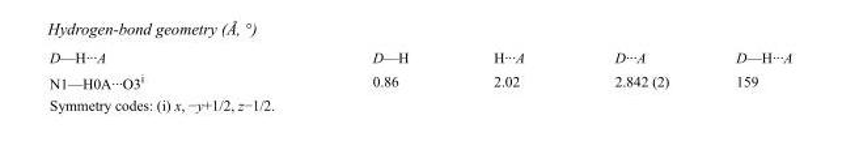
<table><tbody><tr><td>D—H···A</td><td>D—H</td><td>H···A</td><td>D···A</td><td>D—H···A</td></tr><tr><td>N1—H0A···O3<sup>i</sup></td><td>0.86</td><td>2.02</td><td>2.842 (2)</td><td>159</td></tr></tbody></table>